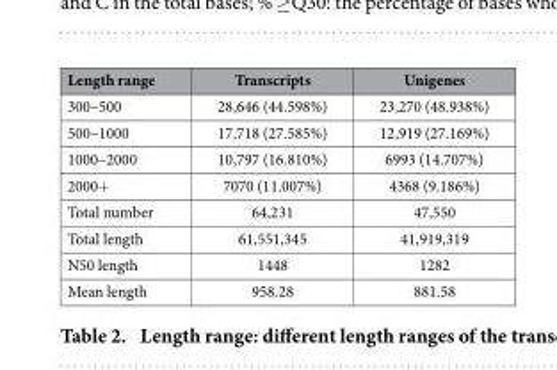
<table><thead><tr><td>Length range</td><td>Transcripts</td><td>Unigenes</td></tr></thead><tbody><tr><td>300–500</td><td>28,646 (44.598%)</td><td>23,270 (48.938%)</td></tr><tr><td>500–1000</td><td>17,718 (27.585%)</td><td>12,919 (27.169%)</td></tr><tr><td>1000–2000</td><td>10,797 (16.810%)</td><td>6993 (14.707%)</td></tr><tr><td>2000+</td><td>7070 (11.007%)</td><td>4368 (9.186%)</td></tr><tr><td>Total number</td><td>64,231</td><td>47,550</td></tr><tr><td>Total length</td><td>61,551,345</td><td>41,919,319</td></tr><tr><td>N50 length</td><td>1448</td><td>1282</td></tr><tr><td>Mean length</td><td>958.28</td><td>881.58</td></tr></tbody></table>